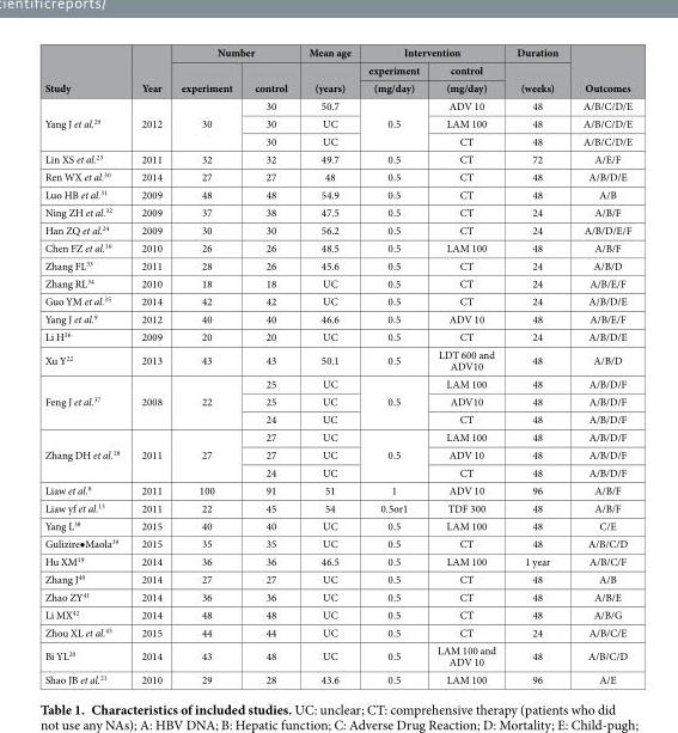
<table><thead><tr><td rowspan="3">Study</td><td rowspan="3">Year</td><td colspan="2">Number</td><td rowspan="3">Mean age (years)</td><td colspan="2">Intervention</td><td rowspan="3">Duration (weeks)</td><td rowspan="3">Outcomes</td></tr><tr><td rowspan="2">experiment</td><td rowspan="2">control</td><td rowspan="2">experiment (mg/day)</td><td rowspan="2">control (mg/day)</td></tr><tr></tr></thead><tbody><tr><td rowspan="3">Yang J et al.<sup>29</sup></td><td rowspan="3">2012</td><td rowspan="3">30</td><td>30</td><td>50.7</td><td rowspan="3">0.5</td><td>ADV 10</td><td>48</td><td>A/B/C/D/E</td></tr><tr><td>30</td><td>UC</td><td>LAM 100</td><td>48</td><td>A/B/C/D/E</td></tr><tr><td>30</td><td>UC</td><td>CT</td><td>48</td><td>A/B/C/D/E</td></tr><tr><td>Lin XS et al.<sup>23</sup></td><td>2011</td><td>32</td><td>32</td><td>49.7</td><td>0.5</td><td>CT</td><td>72</td><td>A/E/F</td></tr><tr><td>Ren WX et al.<sup>30</sup></td><td>2014</td><td>27</td><td>27</td><td>48</td><td>0.5</td><td>CT</td><td>48</td><td>A/B/D/E</td></tr><tr><td>Luo HB et al.<sup>31</sup></td><td>2009</td><td>48</td><td>48</td><td>54.9</td><td>0.5</td><td>CT</td><td>48</td><td>A/B</td></tr><tr><td>Ning ZH et al.<sup>32</sup></td><td>2009</td><td>37</td><td>38</td><td>47.5</td><td>0.5</td><td>CT</td><td>24</td><td>A/B/F</td></tr><tr><td>Han ZQ et al.<sup>24</sup></td><td>2009</td><td>30</td><td>30</td><td>56.2</td><td>0.5</td><td>CT</td><td>24</td><td>A/B/D/E/F</td></tr><tr><td>Chen FZ et al.<sup>16</sup></td><td>2010</td><td>26</td><td>26</td><td>48.5</td><td>0.5</td><td>LAM 100</td><td>48</td><td>A/B/F</td></tr><tr><td>Zhang FL<sup>33</sup></td><td>2011</td><td>28</td><td>26</td><td>45.6</td><td>0.5</td><td>CT</td><td>24</td><td>A/B/D</td></tr><tr><td>Zhang RL<sup>34</sup></td><td>2010</td><td>18</td><td>18</td><td>UC</td><td>0.5</td><td>CT</td><td>24</td><td>A/B/E/F</td></tr><tr><td>Guo YM et al.<sup>35</sup></td><td>2014</td><td>42</td><td>42</td><td>UC</td><td>0.5</td><td>CT</td><td>24</td><td>A/B/D/E</td></tr><tr><td>Yang J et al.<sup>9</sup></td><td>2012</td><td>40</td><td>40</td><td>46.6</td><td>0.5</td><td>ADV 10</td><td>48</td><td>A/B/E/F</td></tr><tr><td>Li H<sup>36</sup></td><td>2009</td><td>20</td><td>20</td><td>UC</td><td>0.5</td><td>CT</td><td>24</td><td>A/B/D/E</td></tr><tr><td>Xu Y<sup>22</sup></td><td>2013</td><td>43</td><td>43</td><td>50.1</td><td>0.5</td><td>LDT 600 and ADV10</td><td>48</td><td>A/B/D</td></tr><tr><td rowspan="3">Feng J et al.<sup>37</sup></td><td rowspan="3">2008</td><td rowspan="3">22</td><td>25</td><td>UC</td><td rowspan="3">0.5</td><td>LAM 100</td><td>48</td><td>A/B/D/F</td></tr><tr><td>25</td><td>UC</td><td>ADV10</td><td>48</td><td>A/B/D/F</td></tr><tr><td>24</td><td>UC</td><td>CT</td><td>48</td><td>A/B/D/F</td></tr><tr><td rowspan="3">Zhang DH et al.<sup>18</sup></td><td rowspan="3">2011</td><td rowspan="3">27</td><td>27</td><td>UC</td><td rowspan="3">0.5</td><td>LAM 100</td><td>48</td><td>A/B/D/F</td></tr><tr><td>27</td><td>UC</td><td>ADV 10</td><td>48</td><td>A/B/D/F</td></tr><tr><td>24</td><td>UC</td><td>CT</td><td>48</td><td>A/B/D/F</td></tr><tr><td>Liaw et al.<sup>8</sup></td><td>2011</td><td>100</td><td>91</td><td>51</td><td>1</td><td>ADV 10</td><td>96</td><td>A/B/F</td></tr><tr><td>Liaw yf et al.<sup>13</sup></td><td>2011</td><td>22</td><td>45</td><td>54</td><td>0.5or1</td><td>TDF 300</td><td>48</td><td>A/B/F</td></tr><tr><td>Yang L<sup>38</sup></td><td>2015</td><td>40</td><td>40</td><td>UC</td><td>0.5</td><td>LAM 100</td><td>48</td><td>C/E</td></tr><tr><td>Gulizire• Maola<sup>39</sup></td><td>2015</td><td>35</td><td>35</td><td>UC</td><td>0.5</td><td>CT</td><td>48</td><td>A/B/C/D</td></tr><tr><td>Hu XM<sup>19</sup></td><td>2014</td><td>36</td><td>36</td><td>46.5</td><td>0.5</td><td>LAM 100</td><td>1 year</td><td>A/B/C/F</td></tr><tr><td>Zhang J<sup>40</sup></td><td>2014</td><td>27</td><td>27</td><td>UC</td><td>0.5</td><td>CT</td><td>48</td><td>A/B</td></tr><tr><td>Zhao ZY<sup>41</sup></td><td>2014</td><td>36</td><td>36</td><td>UC</td><td>0.5</td><td>CT</td><td>48</td><td>A/B/E</td></tr><tr><td>Li MX<sup>42</sup></td><td>2014</td><td>48</td><td>48</td><td>UC</td><td>0.5</td><td>CT</td><td>48</td><td>A/B/G</td></tr><tr><td>Zhou XL et al.<sup>43</sup></td><td>2015</td><td>44</td><td>44</td><td>UC</td><td>0.5</td><td>CT</td><td>24</td><td>A/B/C/E</td></tr><tr><td>Bi YL<sup>20</sup></td><td>2014</td><td>43</td><td>48</td><td>UC</td><td>0.5</td><td>LAM 100 and ADV 10</td><td>48</td><td>A/B/C/D</td></tr><tr><td>Shao JB et al.<sup>21</sup></td><td>2010</td><td>29</td><td>28</td><td>43.6</td><td>0.5</td><td>LAM 100</td><td>96</td><td>A/E</td></tr></tbody></table>